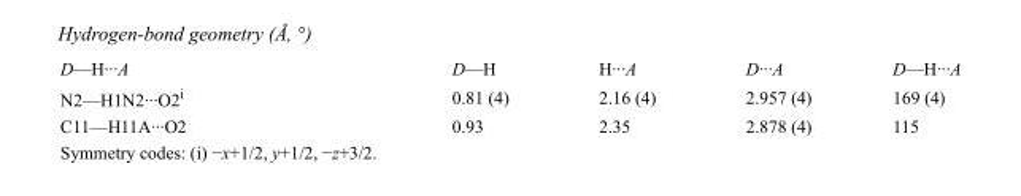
<table><tbody><tr><td>D—H···A</td><td>D—H</td><td>H···A</td><td>D···A</td><td>D—H···A</td></tr><tr><td>N2—H1N2···O2<sup>i</sup></td><td>0.81 (4)</td><td>2.16 (4)</td><td>2.957 (4)</td><td>169 (4)</td></tr><tr><td>C11—H11A···O2</td><td>0.93</td><td>2.35</td><td>2.878 (4)</td><td>115</td></tr></tbody></table>